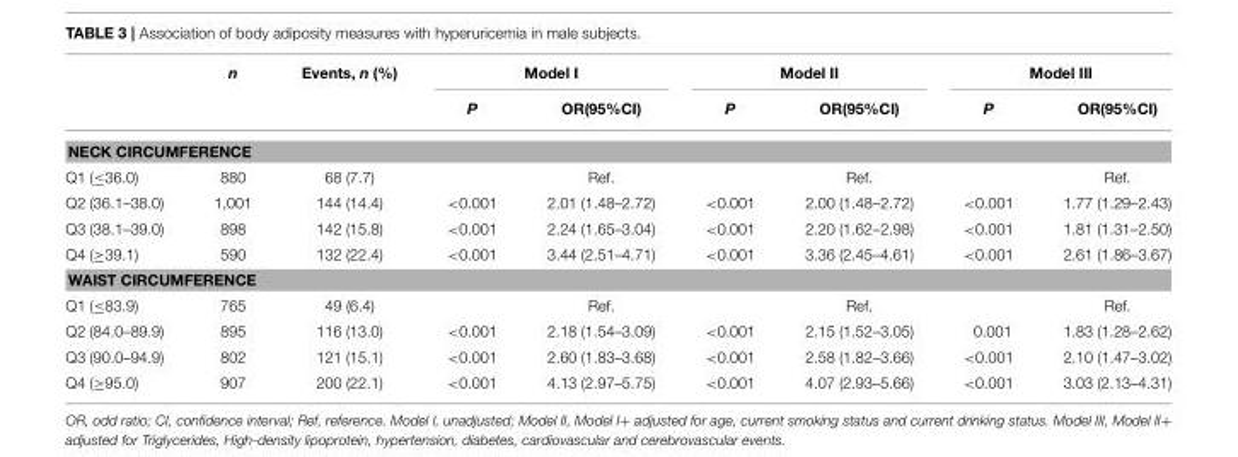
<table><thead><tr><td rowspan="2"></td><td rowspan="2">n</td><td rowspan="2">Events, n (%)</td><td colspan="2">Model I</td><td colspan="2">Model II</td><td colspan="2">Model III</td></tr><tr><td>P</td><td>OR(95%CI)</td><td>P</td><td>OR(95%CI)</td><td>P</td><td>OR(95%CI)</td></tr></thead><tbody><tr><td colspan="9">NECK CIRCUMFERENCE</td></tr><tr><td>Q1 (≤36.0)</td><td>880</td><td>68 (7.7)</td><td></td><td>Ref.</td><td></td><td>Ref.</td><td></td><td>Ref.</td></tr><tr><td>Q2 (36.1–38.0)</td><td>1,001</td><td>144 (14.4)</td><td>&lt;0.001</td><td>2.01 (1.48–2.72)</td><td>&lt;0.001</td><td>2.00 (1.48–2.72)</td><td>&lt;0.001</td><td>1.77 (1.29–2.43)</td></tr><tr><td>Q3 (38.1–39.0)</td><td>898</td><td>142 (15.8)</td><td>&lt;0.001</td><td>2.24 (1.65–3.04)</td><td>&lt;0.001</td><td>2.20 (1.62–2.98)</td><td>&lt;0.001</td><td>1.81 (1.31–2.50)</td></tr><tr><td>Q4 (≥39.1)</td><td>590</td><td>132 (22.4)</td><td>&lt;0.001</td><td>3.44 (2.51–4.71)</td><td>&lt;0.001</td><td>3.36 (2.45–4.61)</td><td>&lt;0.001</td><td>2.61 (1.86–3.67)</td></tr><tr><td colspan="9">WAIST CIRCUMFERENCE</td></tr><tr><td>Q1 (≤83.9)</td><td>765</td><td>49 (6.4)</td><td></td><td>Ref.</td><td></td><td>Ref.</td><td></td><td>Ref.</td></tr><tr><td>Q2 (84.0–89.9)</td><td>895</td><td>116 (13.0)</td><td>&lt;0.001</td><td>2.18 (1.54–3.09)</td><td>&lt;0.001</td><td>2.15 (1.52–3.05)</td><td>0.001</td><td>1.83 (1.28–2.62)</td></tr><tr><td>Q3 (90.0–94.9)</td><td>802</td><td>121 (15.1)</td><td>&lt;0.001</td><td>2.60 (1.83–3.68)</td><td>&lt;0.001</td><td>2.58 (1.82–3.66)</td><td>&lt;0.001</td><td>2.10 (1.47–3.02)</td></tr><tr><td>Q4 (≥95.0)</td><td>907</td><td>200 (22.1)</td><td>&lt;0.001</td><td>4.13 (2.97–5.75)</td><td>&lt;0.001</td><td>4.07 (2.93–5.66)</td><td>&lt;0.001</td><td>3.03 (2.13–4.31)</td></tr></tbody></table>